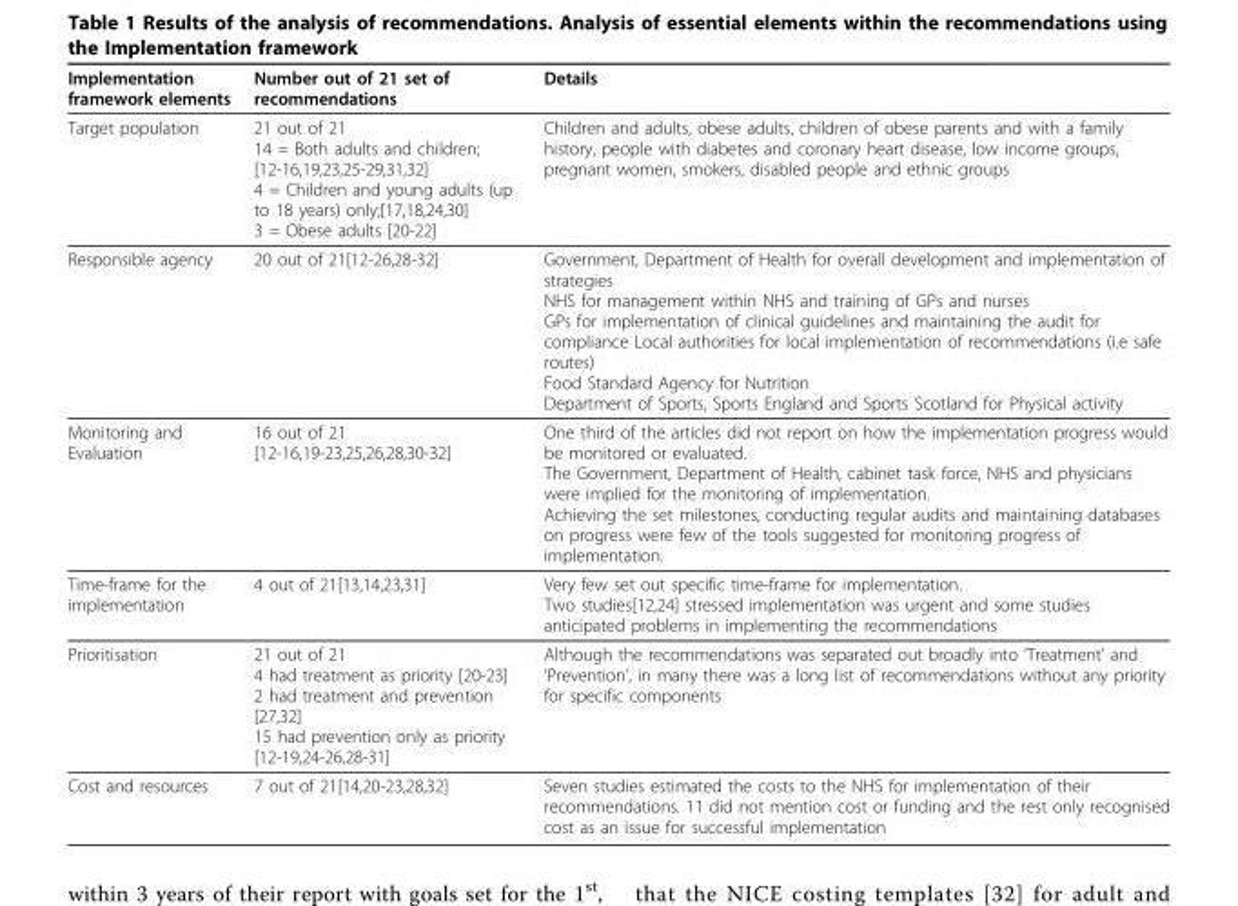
<table><thead><tr><td>Implementation framework elements</td><td>Number out of 21 set of recommendations</td><td>Details</td></tr></thead><tbody><tr><td>Target population</td><td>21 out of 21 14 = Both adults and children; [12-16,19,23,25-29,31,32] 4 = Children and young adults (up to 18 years) only;[17,18,24,30] 3 = Obese adults [20-22]</td><td>Children and adults, obese adults, children of obese parents and with a family history, people with diabetes and coronary heart disease, low income groups, pregnant women, smokers, disabled people and ethnic groups</td></tr><tr><td>Responsible agency</td><td>20 out of 21[12-26,28-32]</td><td>Government, Department of Health for overall development and implementation of strategies NHS for management within NHS and training of GPs and nurses GPs for implementation of clinical guidelines and maintaining the audit for compliance Local authorities for local implementation of recommendations (i.e safe routes) Food Standard Agency for Nutrition Department of Sports, Sports England and Sports Scotland for Physical activity</td></tr><tr><td>Monitoring and Evaluation</td><td>16 out of 21 [12-16,19-23,25,26,28,30-32]</td><td>One third of the articles did not report on how the implementation progress would be monitored or evaluated. The Government, Department of Health, cabinet task force, NHS and physicians were implied for the monitoring of implementation. Achieving the set milestones, conducting regular audits and maintaining databases on progress were few of the tools suggested for monitoring progress of implementation.</td></tr><tr><td>Time-frame for the implementation</td><td>4 out of 21[13,14,23,31]</td><td>Very few set out specific time-frame for implementation. Two studies[12,24] stressed implementation was urgent and some studies anticipated problems in implementing the recommendations</td></tr><tr><td>Prioritisation</td><td>21 out of 21 4 had treatment as priority [20-23] 2 had treatment and prevention [27,32] 15 had prevention only as priority [12-19,24-26,28-31]</td><td>Although the recommendations was separated out broadly into ‘Treatment’ and ‘Prevention’, in many there was a long list of recommendations without any priority for specific components</td></tr><tr><td>Cost and resources</td><td>7 out of 21[14,20-23,28,32]</td><td>Seven studies estimated the costs to the NHS for implementation of their recommendations. 11 did not mention cost or funding and the rest only recognised cost as an issue for successful implementation</td></tr></tbody></table>